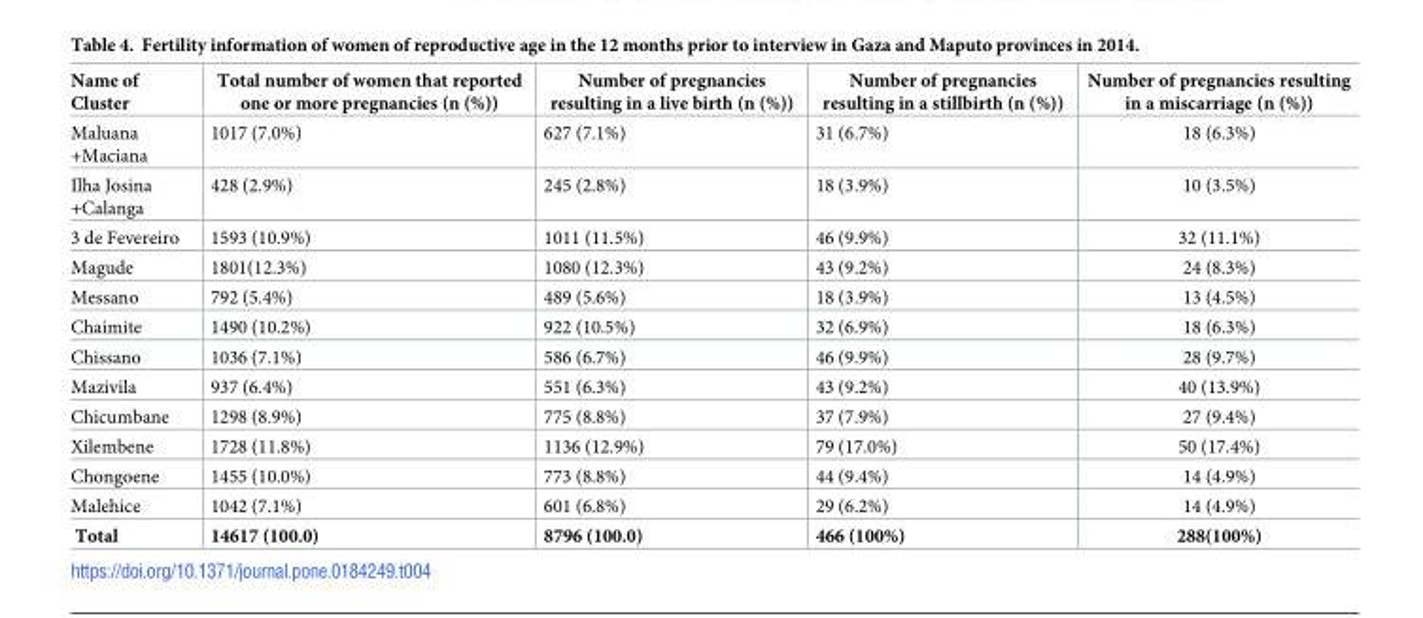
<table><thead><tr><td>Name of Cluster</td><td>Total number of women that reported one or more pregnancies (n (%))</td><td>Number of pregnancies resulting in a live birth (n (%))</td><td>Number of pregnancies resulting in a stillbirth (n (%))</td><td>Number of pregnancies resulting in a miscarriage (n (%))</td></tr></thead><tbody><tr><td>Maluana +Maciana</td><td>1017 (7.0%)</td><td>627 (7.1%)</td><td>31 (6.7%)</td><td>18 (6.3%)</td></tr><tr><td>Ilha Josina +Calanga</td><td>428 (2.9%)</td><td>245 (2.8%)</td><td>18 (3.9%)</td><td>10 (3.5%)</td></tr><tr><td>3 de Fevereiro</td><td>1593 (10.9%)</td><td>1011 (11.5%)</td><td>46 (9.9%)</td><td>32 (11.1%)</td></tr><tr><td>Magude</td><td>1801(12.3%)</td><td>1080 (12.3%)</td><td>43 (9.2%)</td><td>24 (8.3%)</td></tr><tr><td>Messano</td><td>792 (5.4%)</td><td>489 (5.6%)</td><td>18 (3.9%)</td><td>13 (4.5%)</td></tr><tr><td>Chaimite</td><td>1490 (10.2%)</td><td>922 (10.5%)</td><td>32 (6.9%)</td><td>18 (6.3%)</td></tr><tr><td>Chissano</td><td>1036 (7.1%)</td><td>586 (6.7%)</td><td>46 (9.9%)</td><td>28 (9.7%)</td></tr><tr><td>Mazivila</td><td>937 (6.4%)</td><td>551 (6.3%)</td><td>43 (9.2%)</td><td>40 (13.9%)</td></tr><tr><td>Chicumbane</td><td>1298 (8.9%)</td><td>775 (8.8%)</td><td>37 (7.9%)</td><td>27 (9.4%)</td></tr><tr><td>Xilembene</td><td>1728 (11.8%)</td><td>1136 (12.9%)</td><td>79 (17.0%)</td><td>50 (17.4%)</td></tr><tr><td>Chongoene</td><td>1455 (10.0%)</td><td>773 (8.8%)</td><td>44 (9.4%)</td><td>14 (4.9%)</td></tr><tr><td>Malehice</td><td>1042 (7.1%)</td><td>601 (6.8%)</td><td>29 (6.2%)</td><td>14 (4.9%)</td></tr><tr><td>Total</td><td>14617 (100.0)</td><td>8796 (100.0)</td><td>466 (100%)</td><td>288(100%)</td></tr></tbody></table>